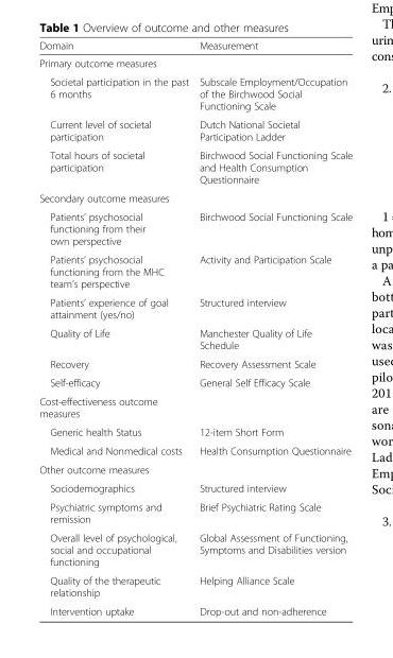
<table><thead><tr><td>Domain</td><td>Measurement</td></tr></thead><tbody><tr><td colspan="2">Primary outcome measures</td></tr><tr><td>Societal participation in the past 6 months</td><td>Subscale Employment/Occupation of the Birchwood Social Functioning Scale</td></tr><tr><td>Current level of societal participation</td><td>Dutch National Societal Participation Ladder</td></tr><tr><td>Total hours of societal participation</td><td>Birchwood Social Functioning Scale and Health Consumption Questionnaire</td></tr><tr><td colspan="2">Secondary outcome measures</td></tr><tr><td>Patients’ psychosocial functioning from their own perspective</td><td>Birchwood Social Functioning Scale</td></tr><tr><td>Patients’ psychosocial functioning from the MHC team’s perspective</td><td>Activity and Participation Scale</td></tr><tr><td>Patients’ experience of goal attainment (yes/no)</td><td>Structured interview</td></tr><tr><td>Quality of Life</td><td>Manchester Quality of Life Schedule</td></tr><tr><td>Recovery</td><td>Recovery Assessment Scale</td></tr><tr><td>Self-efficacy</td><td>General Self Efficacy Scale</td></tr><tr><td colspan="2">Cost-effectiveness outcome measures</td></tr><tr><td>Generic health Status</td><td>12-item Short Form</td></tr><tr><td>Medical and Nonmedical costs</td><td>Health Consumption Questionnaire</td></tr><tr><td colspan="2">Other outcome measures</td></tr><tr><td>Sociodemographics</td><td>Structured interview</td></tr><tr><td>Psychiatric symptoms and remission</td><td>Brief Psychiatric Rating Scale</td></tr><tr><td>Overall level of psychological, social and occupational functioning</td><td>Global Assessment of Functioning, Symptoms and Disabilities version</td></tr><tr><td>Quality of the therapeutic relationship</td><td>Helping Alliance Scale</td></tr><tr><td>Intervention uptake</td><td>Drop-out and non-adherence</td></tr></tbody></table>